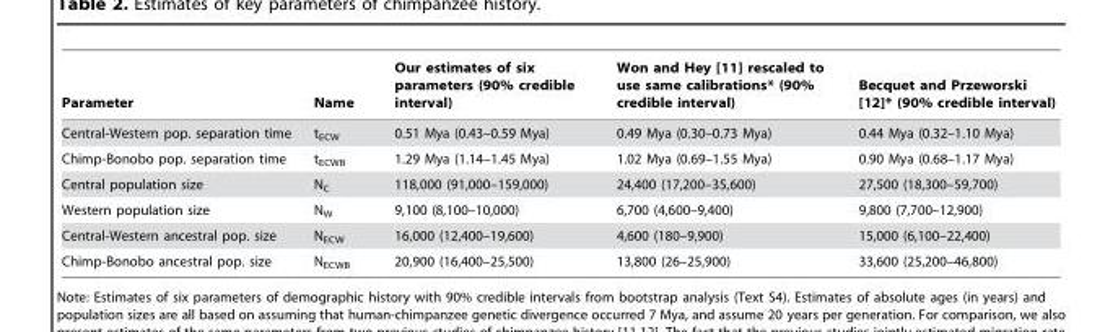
<table><thead><tr><td>Parameter</td><td>Name</td><td>Our estimates of six parameters (90% credible interval)</td><td>Won and Hey [11] rescaled to use same calibrations* (90% credible interval)</td><td>Becquet and Przeworski [12]* (90% credible interval)</td></tr></thead><tbody><tr><td>Central-Western pop. separation time</td><td>t<sub>ECW</sub></td><td>0.51 Mya (0.43–0.59 Mya)</td><td>0.49 Mya (0.30–0.73 Mya)</td><td>0.44 Mya (0.32–1.10 Mya)</td></tr><tr><td>Chimp-Bonobo pop. separation time</td><td>t<sub>ECWB</sub></td><td>1.29 Mya (1.14–1.45 Mya)</td><td>1.02 Mya (0.69–1.55 Mya)</td><td>0.90 Mya (0.68–1.17 Mya)</td></tr><tr><td>Central population size</td><td>N<sub>C</sub></td><td>118,000 (91,000–159,000)</td><td>24,400 (17,200–35,600)</td><td>27,500 (18,300–59,700)</td></tr><tr><td>Western population size</td><td>N<sub>W</sub></td><td>9,100 (8,100–10,000)</td><td>6,700 (4,600–9,400)</td><td>9,800 (7,700–12,900)</td></tr><tr><td>Central-Western ancestral pop. size</td><td>N<sub>ECW</sub></td><td>16,000 (12,400–19,600)</td><td>4,600 (180–9,900)</td><td>15,000 (6,100–22,400)</td></tr><tr><td>Chimp-Bonobo ancestral pop. size</td><td>N<sub>ECWB</sub></td><td>20,900 (16,400–25,500)</td><td>13,800 (26–25,900)</td><td>33,600 (25,200–46,800)</td></tr></tbody></table>